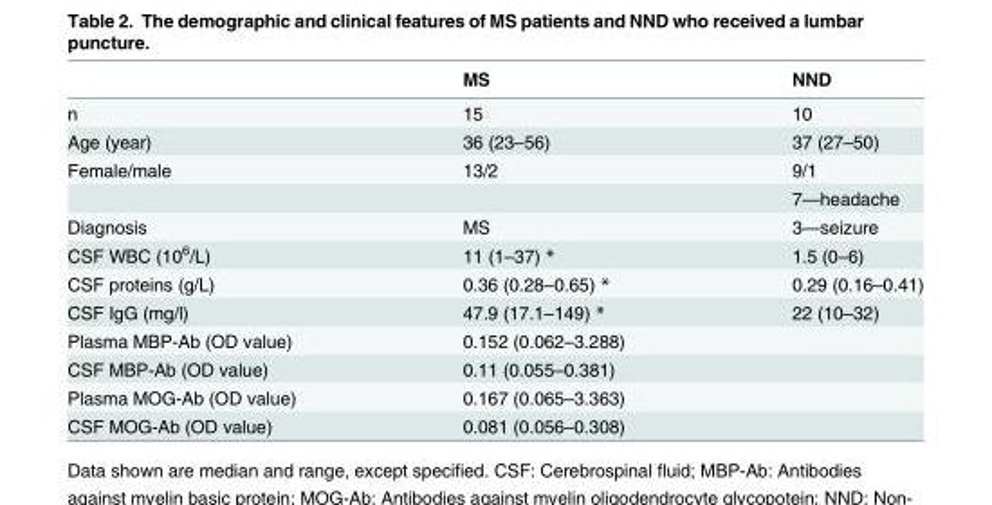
<table><thead><tr><td></td><td>MS</td><td>NND</td></tr></thead><tbody><tr><td>n</td><td>15</td><td>10</td></tr><tr><td>Age (year)</td><td>36 (23–56)</td><td>37 (27–50)</td></tr><tr><td rowspan="2">Female/male</td><td>13/2</td><td>9/1</td></tr><tr><td></td><td>7—headache</td></tr><tr><td>Diagnosis</td><td>MS</td><td>3—seizure</td></tr><tr><td>CSF WBC (10<sup>6</sup>/L)</td><td>11 (1–37) *</td><td>1.5 (0–6)</td></tr><tr><td>CSF proteins (g/L)</td><td>0.36 (0.28–0.65) *</td><td>0.29 (0.16–0.41)</td></tr><tr><td>CSF IgG (mg/l)</td><td>47.9 (17.1–149) *</td><td>22 (10–32)</td></tr><tr><td>Plasma MBP-Ab (OD value)</td><td>0.152 (0.062–3.288)</td><td></td></tr><tr><td>CSF MBP-Ab (OD value)</td><td>0.11 (0.055–0.381)</td><td></td></tr><tr><td>Plasma MOG-Ab (OD value)</td><td>0.167 (0.065–3.363)</td><td></td></tr><tr><td>CSF MOG-Ab (OD value)</td><td>0.081 (0.056–0.308)</td><td></td></tr></tbody></table>